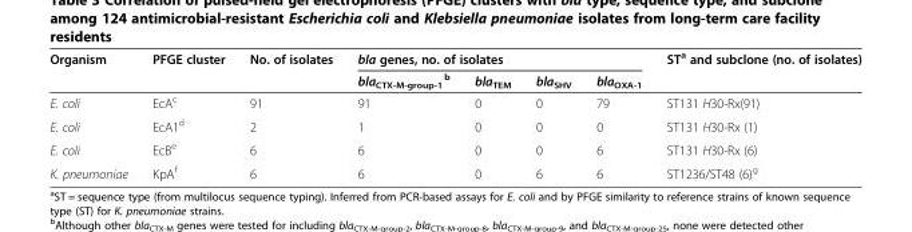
<table><thead><tr><td rowspan="2">Organism</td><td rowspan="2">PFGE cluster</td><td rowspan="2">No. of isolates</td><td colspan="4">bla genes, no. of isolates</td><td rowspan="2">ST<sup>a</sup> and subclone (no. of isolates)</td></tr><tr><td>bla<sub>CTX-M-group-1</sub> <sup>b</sup></td><td>bla<sub>TEM</sub></td><td>bla<sub>SHV</sub></td><td>bla<sub>OXA-1</sub></td></tr></thead><tbody><tr><td>E. coli</td><td>EcA<sup>c</sup></td><td>91</td><td>91</td><td>0</td><td>0</td><td>79</td><td>ST131 H30-Rx(91)</td></tr><tr><td>E. coli</td><td>EcA1<sup>d</sup></td><td>2</td><td>1</td><td>0</td><td>0</td><td>0</td><td>ST131 H30-Rx (1)</td></tr><tr><td>E. coli</td><td>EcB<sup>e</sup></td><td>6</td><td>6</td><td>0</td><td>0</td><td>6</td><td>ST131 H30-Rx (6)</td></tr><tr><td>K. pneumoniae</td><td>KpA<sup>f</sup></td><td>6</td><td>6</td><td>0</td><td>6</td><td>6</td><td>ST1236/ST48 (6)<sup>g</sup></td></tr></tbody></table>